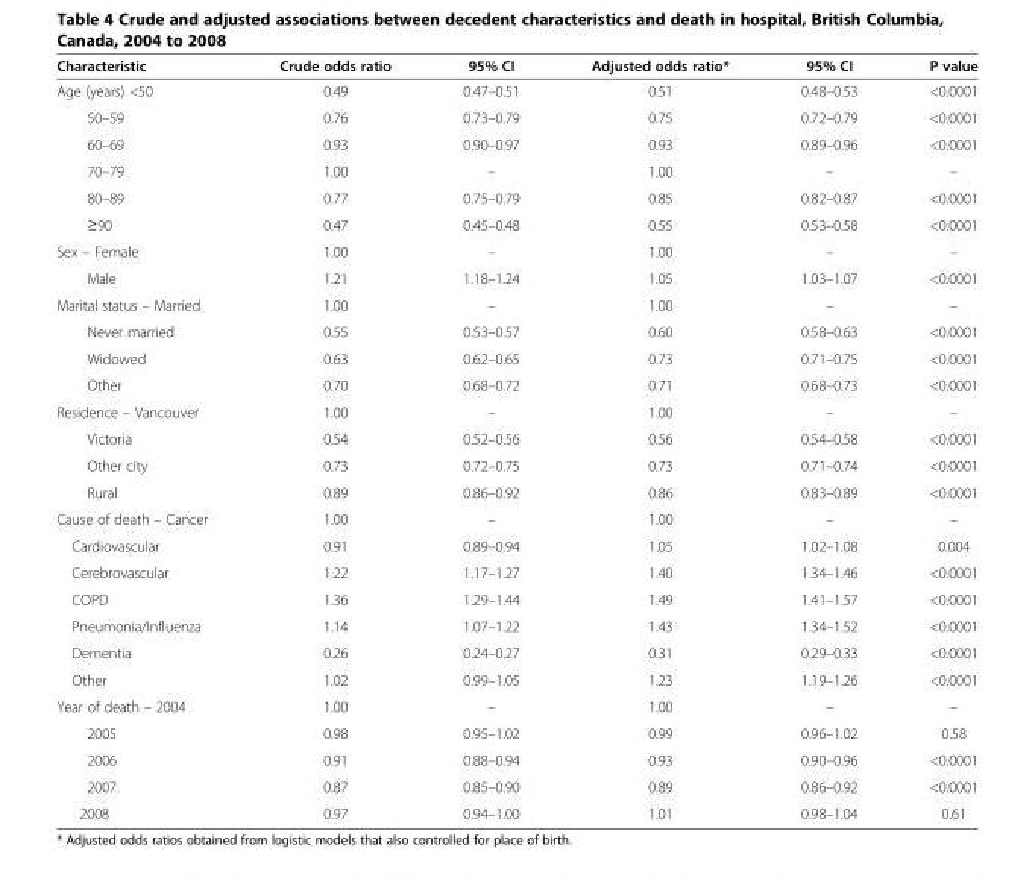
<table><thead><tr><td>Characteristic</td><td>Crude odds ratio</td><td>95% CI</td><td>Adjusted odds ratio*</td><td>95% CI</td><td>P value</td></tr></thead><tbody><tr><td>Age (years) &lt;50</td><td>0.49</td><td>0.47–0.51</td><td>0.51</td><td>0.48–0.53</td><td>&lt;0.0001</td></tr><tr><td>50–59</td><td>0.76</td><td>0.73–0.79</td><td>0.75</td><td>0.72–0.79</td><td>&lt;0.0001</td></tr><tr><td>60–69</td><td>0.93</td><td>0.90–0.97</td><td>0.93</td><td>0.89–0.96</td><td>&lt;0.0001</td></tr><tr><td>70–79</td><td>1.00</td><td>–</td><td>1.00</td><td>–</td><td>–</td></tr><tr><td>80–89</td><td>0.77</td><td>0.75–0.79</td><td>0.85</td><td>0.82–0.87</td><td>&lt;0.0001</td></tr><tr><td>≥90</td><td>0.47</td><td>0.45–0.48</td><td>0.55</td><td>0.53–0.58</td><td>&lt;0.0001</td></tr><tr><td>Sex – Female</td><td>1.00</td><td>–</td><td>1.00</td><td>–</td><td>–</td></tr><tr><td>Male</td><td>1.21</td><td>1.18–1.24</td><td>1.05</td><td>1.03–1.07</td><td>&lt;0.0001</td></tr><tr><td>Marital status – Married</td><td>1.00</td><td>–</td><td>1.00</td><td>–</td><td>–</td></tr><tr><td>Never married</td><td>0.55</td><td>0.53–0.57</td><td>0.60</td><td>0.58–0.63</td><td>&lt;0.0001</td></tr><tr><td>Widowed</td><td>0.63</td><td>0.62–0.65</td><td>0.73</td><td>0.71–0.75</td><td>&lt;0.0001</td></tr><tr><td>Other</td><td>0.70</td><td>0.68–0.72</td><td>0.71</td><td>0.68–0.73</td><td>&lt;0.0001</td></tr><tr><td>Residence – Vancouver</td><td>1.00</td><td>–</td><td>1.00</td><td>–</td><td>–</td></tr><tr><td>Victoria</td><td>0.54</td><td>0.52–0.56</td><td>0.56</td><td>0.54–0.58</td><td>&lt;0.0001</td></tr><tr><td>Other city</td><td>0.73</td><td>0.72–0.75</td><td>0.73</td><td>0.71–0.74</td><td>&lt;0.0001</td></tr><tr><td>Rural</td><td>0.89</td><td>0.86–0.92</td><td>0.86</td><td>0.83–0.89</td><td>&lt;0.0001</td></tr><tr><td>Cause of death – Cancer</td><td>1.00</td><td>–</td><td>1.00</td><td>–</td><td>–</td></tr><tr><td>Cardiovascular</td><td>0.91</td><td>0.89–0.94</td><td>1.05</td><td>1.02–1.08</td><td>0.004</td></tr><tr><td>Cerebrovascular</td><td>1.22</td><td>1.17–1.27</td><td>1.40</td><td>1.34–1.46</td><td>&lt;0.0001</td></tr><tr><td>COPD</td><td>1.36</td><td>1.29–1.44</td><td>1.49</td><td>1.41–1.57</td><td>&lt;0.0001</td></tr><tr><td>Pneumonia/Influenza</td><td>1.14</td><td>1.07–1.22</td><td>1.43</td><td>1.34–1.52</td><td>&lt;0.0001</td></tr><tr><td>Dementia</td><td>0.26</td><td>0.24–0.27</td><td>0.31</td><td>0.29–0.33</td><td>&lt;0.0001</td></tr><tr><td>Other</td><td>1.02</td><td>0.99–1.05</td><td>1.23</td><td>1.19–1.26</td><td>&lt;0.0001</td></tr><tr><td>Year of death – 2004</td><td>1.00</td><td>–</td><td>1.00</td><td>–</td><td>–</td></tr><tr><td>2005</td><td>0.98</td><td>0.95–1.02</td><td>0.99</td><td>0.96–1.02</td><td>0.58</td></tr><tr><td>2006</td><td>0.91</td><td>0.88–0.94</td><td>0.93</td><td>0.90–0.96</td><td>&lt;0.0001</td></tr><tr><td>2007</td><td>0.87</td><td>0.85–0.90</td><td>0.89</td><td>0.86–0.92</td><td>&lt;0.0001</td></tr><tr><td>2008</td><td>0.97</td><td>0.94–1.00</td><td>1.01</td><td>0.98–1.04</td><td>0.61</td></tr></tbody></table>